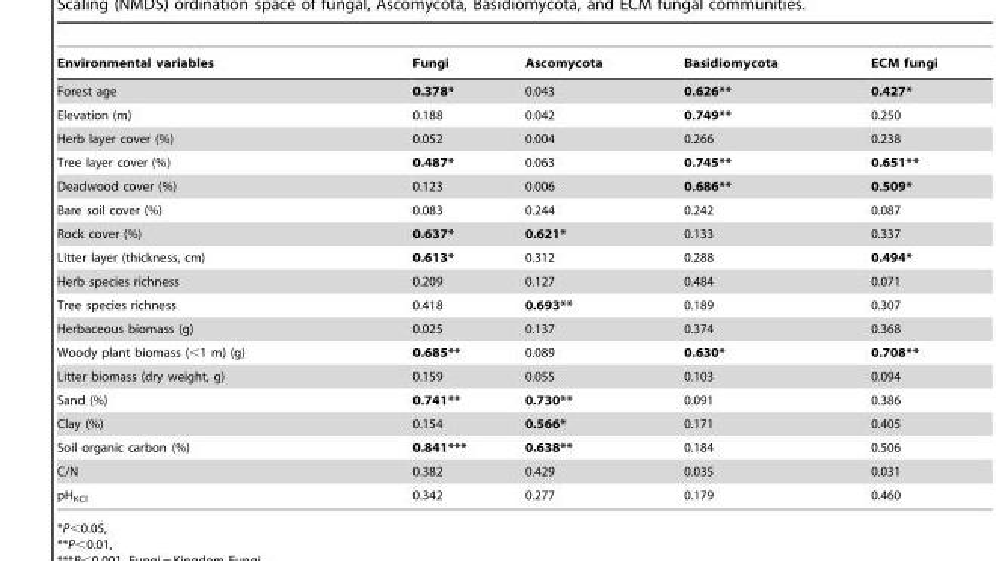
<table><thead><tr><td>Environmental variables</td><td>Fungi</td><td>Ascomycota</td><td>Basidiomycota</td><td>ECM fungi</td></tr></thead><tbody><tr><td>Forest age</td><td>0.378*</td><td>0.043</td><td>0.626**</td><td>0.427*</td></tr><tr><td>Elevation (m)</td><td>0.188</td><td>0.042</td><td>0.749**</td><td>0.250</td></tr><tr><td>Herb layer cover (%)</td><td>0.052</td><td>0.004</td><td>0.266</td><td>0.238</td></tr><tr><td>Tree layer cover (%)</td><td>0.487*</td><td>0.063</td><td>0.745**</td><td>0.651**</td></tr><tr><td>Deadwood cover (%)</td><td>0.123</td><td>0.006</td><td>0.686**</td><td>0.509*</td></tr><tr><td>Bare soil cover (%)</td><td>0.083</td><td>0.244</td><td>0.242</td><td>0.087</td></tr><tr><td>Rock cover (%)</td><td>0.637*</td><td>0.621*</td><td>0.133</td><td>0.337</td></tr><tr><td>Litter layer (thickness, cm)</td><td>0.613*</td><td>0.312</td><td>0.288</td><td>0.494*</td></tr><tr><td>Herb species richness</td><td>0.209</td><td>0.127</td><td>0.484</td><td>0.071</td></tr><tr><td>Tree species richness</td><td>0.418</td><td>0.693**</td><td>0.189</td><td>0.307</td></tr><tr><td>Herbaceous biomass (g)</td><td>0.025</td><td>0.137</td><td>0.374</td><td>0.368</td></tr><tr><td>Woody plant biomass (&lt;1 m) (g)</td><td>0.685**</td><td>0.089</td><td>0.630*</td><td>0.708**</td></tr><tr><td>Litter biomass (dry weight, g)</td><td>0.159</td><td>0.055</td><td>0.103</td><td>0.094</td></tr><tr><td>Sand (%)</td><td>0.741**</td><td>0.730**</td><td>0.091</td><td>0.386</td></tr><tr><td>Clay (%)</td><td>0.154</td><td>0.566*</td><td>0.171</td><td>0.405</td></tr><tr><td>Soil organic carbon (%)</td><td>0.841***</td><td>0.638**</td><td>0.184</td><td>0.506</td></tr><tr><td>C/N</td><td>0.382</td><td>0.429</td><td>0.035</td><td>0.031</td></tr><tr><td>pH<sub>KCl</sub></td><td>0.342</td><td>0.277</td><td>0.179</td><td>0.460</td></tr></tbody></table>